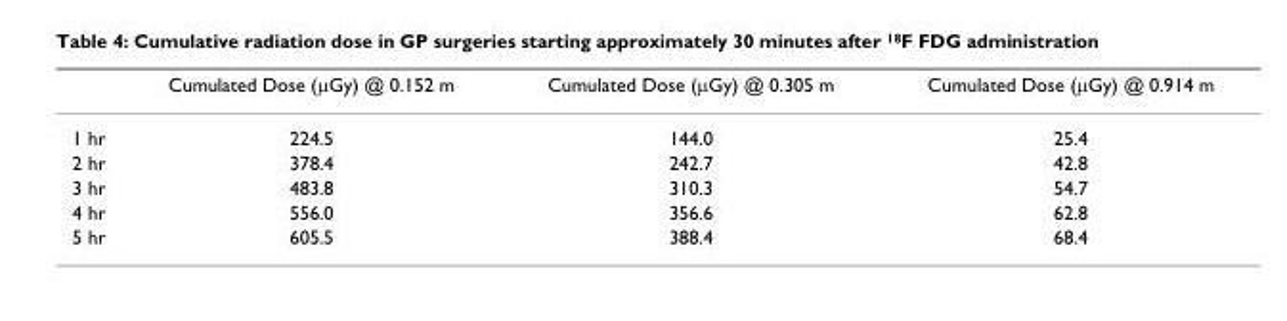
<table><thead><tr><td></td><td>Cumulated Dose (μGy) @ 0.152 m</td><td>Cumulated Dose (μGy) @ 0.305 m</td><td>Cumulated Dose (μGy) @ 0.914 m</td></tr></thead><tbody><tr><td>1 hr</td><td>224.5</td><td>144.0</td><td>25.4</td></tr><tr><td>2 hr</td><td>378.4</td><td>242.7</td><td>42.8</td></tr><tr><td>3 hr</td><td>483.8</td><td>310.3</td><td>54.7</td></tr><tr><td>4 hr</td><td>556.0</td><td>356.6</td><td>62.8</td></tr><tr><td>5 hr</td><td>605.5</td><td>388.4</td><td>68.4</td></tr></tbody></table>